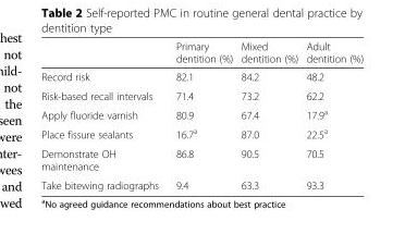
<table><thead><tr><td></td><td>Primary dentition (%)</td><td>Mixed dentition (%)</td><td>Adult dentition (%)</td></tr></thead><tbody><tr><td>Record risk</td><td>82.1</td><td>84.2</td><td>48.2</td></tr><tr><td>Risk-based recall intervals</td><td>71.4</td><td>73.2</td><td>62.2</td></tr><tr><td>Apply fluoride varnish</td><td>80.9</td><td>67.4</td><td>17.9<sup>a</sup></td></tr><tr><td>Place fissure sealants</td><td>16.7<sup>a</sup></td><td>87.0</td><td>22.5<sup>a</sup></td></tr><tr><td>Demonstrate OH maintenance</td><td>86.8</td><td>90.5</td><td>70.5</td></tr><tr><td>Take bitewing radiographs</td><td>9.4</td><td>63.3</td><td>93.3</td></tr></tbody></table>